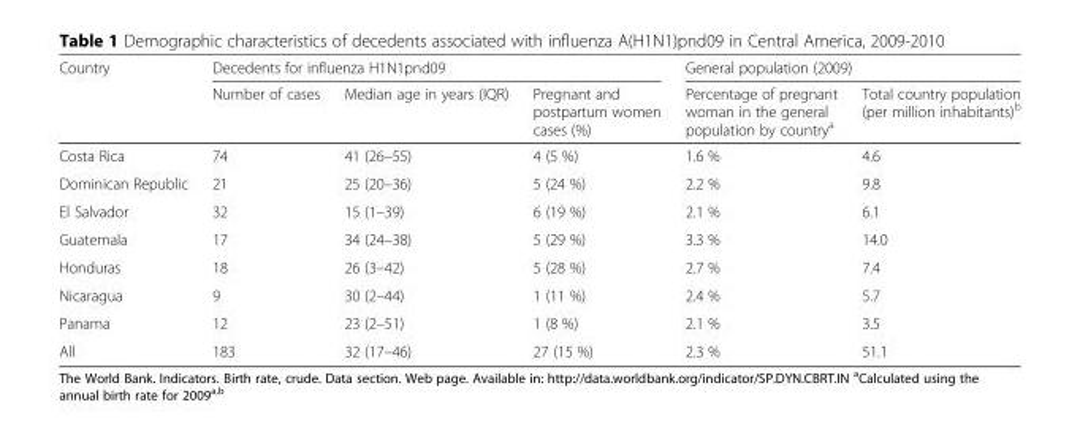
<table><thead><tr><td rowspan="2">Country</td><td colspan="3">Decedents for influenza H1N1pnd09</td><td colspan="2">General population (2009)</td></tr><tr><td>Number of cases</td><td>Median age in years (IQR)</td><td>Pregnant and postpartum women cases (%)</td><td>Percentage of pregnant woman in the general population by country<sup>a</sup></td><td>Total country population (per million inhabitants)<sup>b</sup></td></tr></thead><tbody><tr><td>Costa Rica</td><td>74</td><td>41 (26–55)</td><td>4 (5 %)</td><td>1.6 %</td><td>4.6</td></tr><tr><td>Dominican Republic</td><td>21</td><td>25 (20–36)</td><td>5 (24 %)</td><td>2.2 %</td><td>9.8</td></tr><tr><td>El Salvador</td><td>32</td><td>15 (1–39)</td><td>6 (19 %)</td><td>2.1 %</td><td>6.1</td></tr><tr><td>Guatemala</td><td>17</td><td>34 (24–38)</td><td>5 (29 %)</td><td>3.3 %</td><td>14.0</td></tr><tr><td>Honduras</td><td>18</td><td>26 (3–42)</td><td>5 (28 %)</td><td>2.7 %</td><td>7.4</td></tr><tr><td>Nicaragua</td><td>9</td><td>30 (2–44)</td><td>1 (11 %)</td><td>2.4 %</td><td>5.7</td></tr><tr><td>Panama</td><td>12</td><td>23 (2–51)</td><td>1 (8 %)</td><td>2.1 %</td><td>3.5</td></tr><tr><td>All</td><td>183</td><td>32 (17–46)</td><td>27 (15 %)</td><td>2.3 %</td><td>51.1</td></tr></tbody></table>